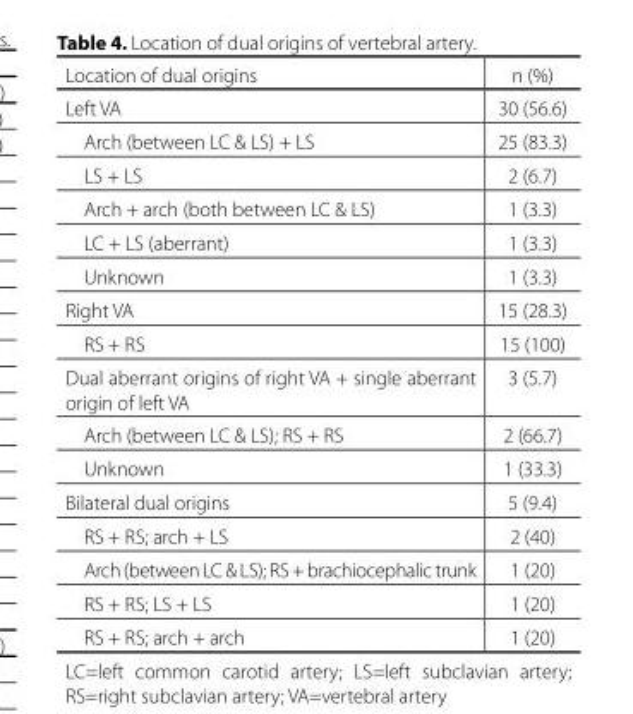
<table><thead><tr><td>Location of dual origins</td><td>n (%)</td></tr></thead><tbody><tr><td>Left VA</td><td>30 (56.6)</td></tr><tr><td>Arch (between LC &amp; LS) + LS</td><td>25 (83.3)</td></tr><tr><td>LS + LS</td><td>2 (6.7)</td></tr><tr><td>Arch + arch (both between LC &amp; LS)</td><td>1 (3.3)</td></tr><tr><td>LC + LS (aberrant)</td><td>1 (3.3)</td></tr><tr><td>Unknown</td><td>1 (3.3)</td></tr><tr><td>Right VA</td><td>15 (28.3)</td></tr><tr><td>RS + RS</td><td>15 (100)</td></tr><tr><td>Dual aberrant origins of right VA + single aberrant origin of left VA</td><td>3 (5.7)</td></tr><tr><td>Arch (between LC &amp; LS); RS + RS</td><td>2 (66.7)</td></tr><tr><td>Unknown</td><td>1 (33.3)</td></tr><tr><td>Bilateral dual origins</td><td>5 (9.4)</td></tr><tr><td>RS + RS; arch + LS</td><td>2 (40)</td></tr><tr><td>Arch (between LC &amp; LS); RS + brachiocephalic trunk</td><td>1 (20)</td></tr><tr><td>RS + RS; LS + LS</td><td>1 (20)</td></tr><tr><td>RS + RS; arch + arch</td><td>1 (20)</td></tr></tbody></table>